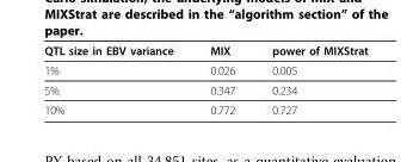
<table><thead><tr><td>QTL size in EBV variance</td><td>MIX</td><td>power of MIXStrat</td></tr></thead><tbody><tr><td>1%</td><td>0.026</td><td>0.005</td></tr><tr><td>5%</td><td>0.347</td><td>0.234</td></tr><tr><td>10%</td><td>0.772</td><td>0.727</td></tr></tbody></table>